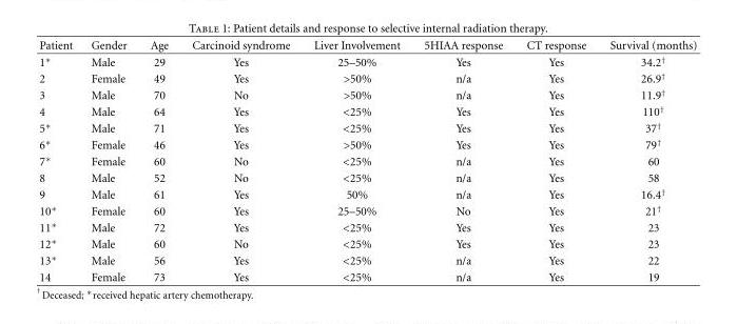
<table><thead><tr><td>Patient</td><td>Gender</td><td>Age</td><td>Carcinoid syndrome</td><td>Liver Involvement</td><td>5HIAA response</td><td>CT response</td><td>Survival (months)</td></tr></thead><tbody><tr><td>1∗</td><td>Male</td><td>29</td><td>Yes</td><td>25–50%</td><td>Yes</td><td>Yes</td><td>34.2<sup>†</sup></td></tr><tr><td>2</td><td>Female</td><td>49</td><td>Yes</td><td>&gt;50%</td><td>n/a</td><td>Yes</td><td>26.9<sup>†</sup></td></tr><tr><td>3</td><td>Male</td><td>70</td><td>No</td><td>&gt;50%</td><td>n/a</td><td>Yes</td><td>11.9<sup>†</sup></td></tr><tr><td>4</td><td>Male</td><td>64</td><td>Yes</td><td>&lt;25%</td><td>Yes</td><td>Yes</td><td>110<sup>†</sup></td></tr><tr><td>5∗</td><td>Male</td><td>71</td><td>Yes</td><td>&lt;25%</td><td>Yes</td><td>Yes</td><td>37<sup>†</sup></td></tr><tr><td>6∗</td><td>Female</td><td>46</td><td>Yes</td><td>&gt;50%</td><td>Yes</td><td>Yes</td><td>79<sup>†</sup></td></tr><tr><td>7∗</td><td>Female</td><td>60</td><td>No</td><td>&lt;25%</td><td>n/a</td><td>Yes</td><td>60</td></tr><tr><td>8</td><td>Male</td><td>52</td><td>No</td><td>&lt;25%</td><td>n/a</td><td>Yes</td><td>58</td></tr><tr><td>9</td><td>Male</td><td>61</td><td>Yes</td><td>50%</td><td>n/a</td><td>Yes</td><td>16.4<sup>†</sup></td></tr><tr><td>10∗</td><td>Female</td><td>60</td><td>Yes</td><td>25–50%</td><td>No</td><td>Yes</td><td>21<sup>†</sup></td></tr><tr><td>11∗</td><td>Male</td><td>72</td><td>Yes</td><td>&lt;25%</td><td>Yes</td><td>Yes</td><td>23</td></tr><tr><td>12∗</td><td>Male</td><td>60</td><td>No</td><td>&lt;25%</td><td>Yes</td><td>Yes</td><td>23</td></tr><tr><td>13∗</td><td>Male</td><td>56</td><td>Yes</td><td>&lt;25%</td><td>n/a</td><td>Yes</td><td>22</td></tr><tr><td>14</td><td>Female</td><td>73</td><td>Yes</td><td>&lt;25%</td><td>n/a</td><td>Yes</td><td>19</td></tr></tbody></table>